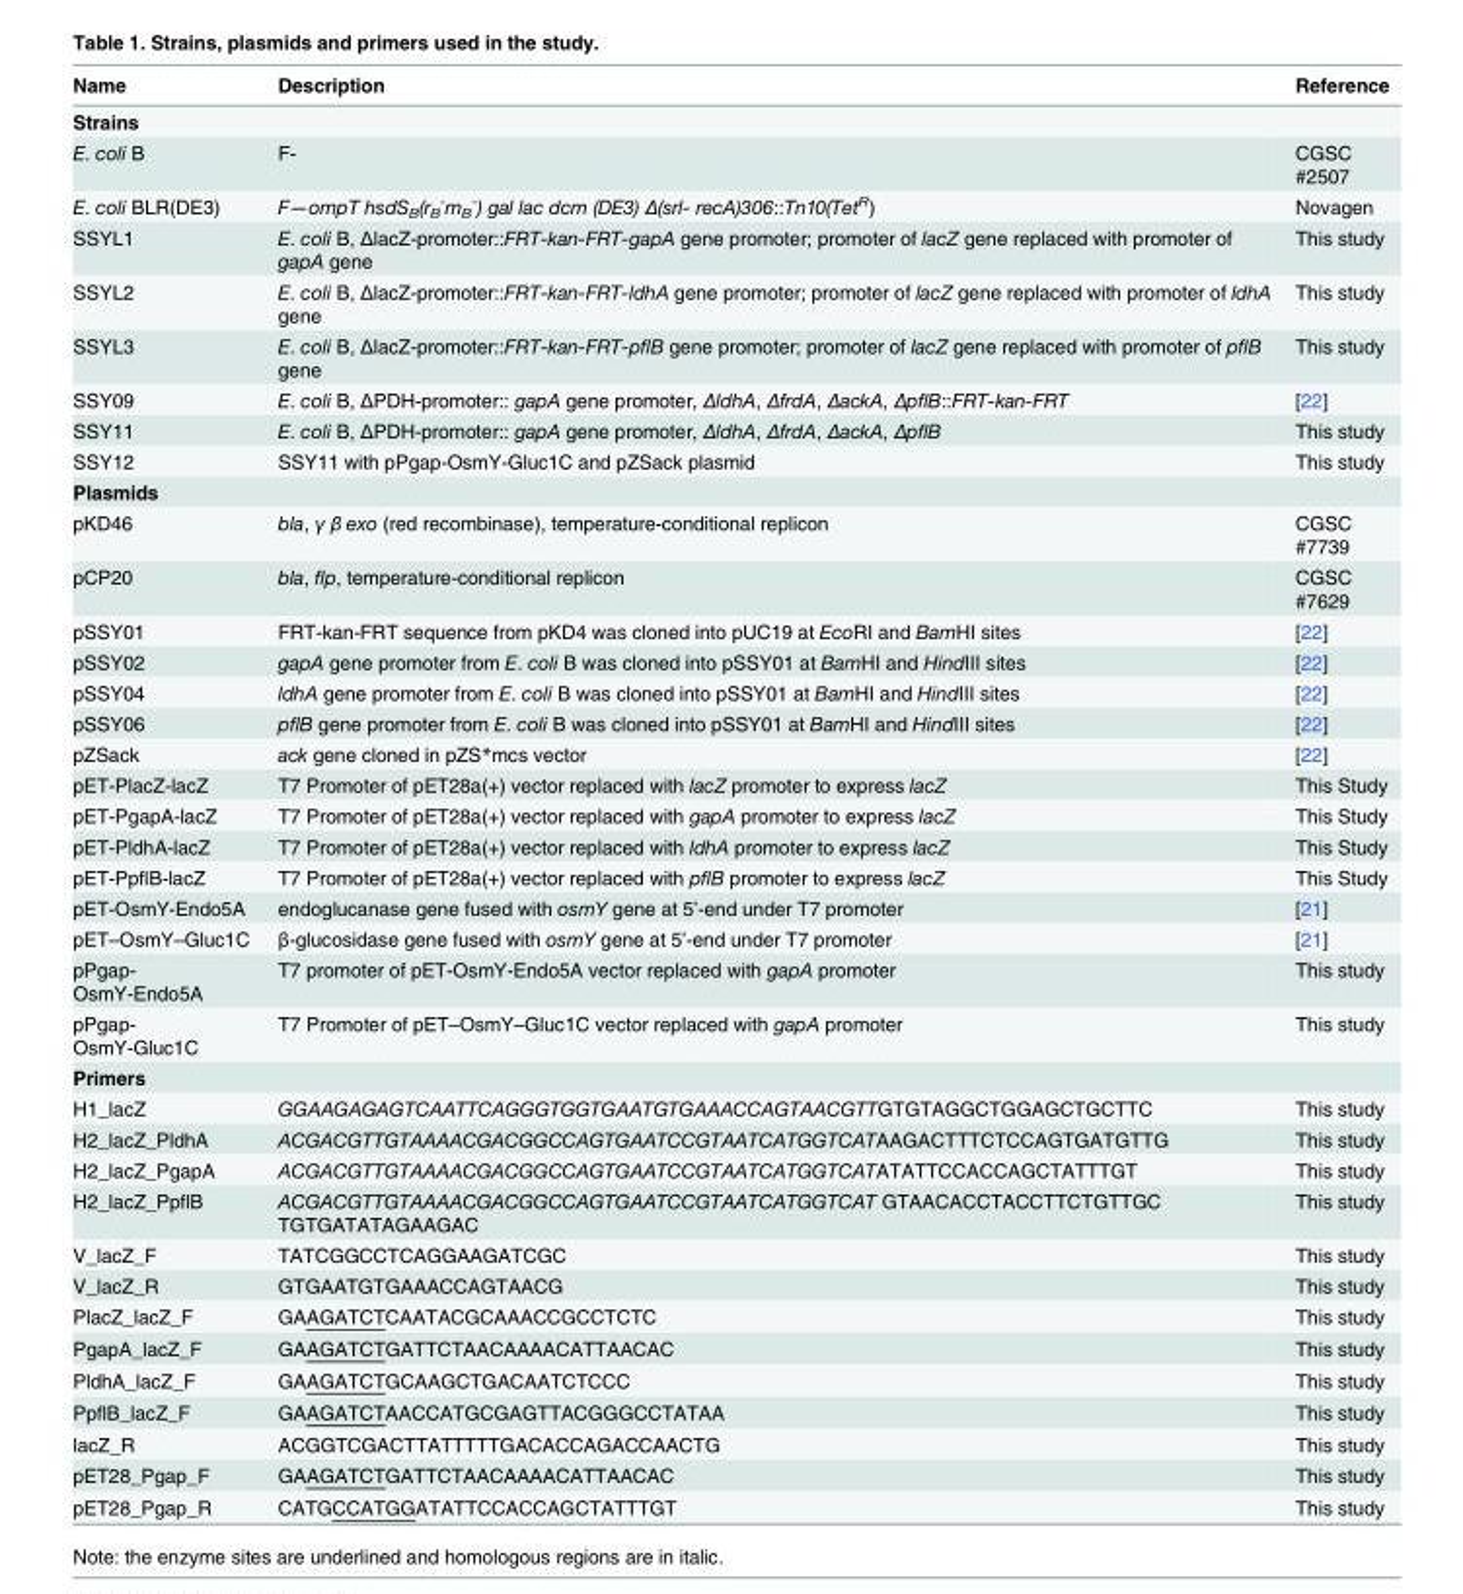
<table><thead><tr><td>Name</td><td>Description</td><td>Reference</td></tr></thead><tbody><tr><td colspan="3">Strains</td></tr><tr><td>E. coli B</td><td>F-</td><td>CGSC #2507</td></tr><tr><td>E. coli BLR(DE3)</td><td>F—ompT hsdS<sub>B</sub>(r<sub>B</sub> <sup>-</sup>m<sub>B</sub> <sup>-</sup>) gal lac dcm (DE3) Δ(srl- recA)306::Tn10(Tet<sup>R</sup>)</td><td>Novagen</td></tr><tr><td>SSYL1</td><td>E. coli B, ΔlacZ-promoter::FRT-kan-FRT-gapA gene promoter; promoter of lacZ gene replaced with promoter of gapA gene</td><td>This study</td></tr><tr><td>SSYL2</td><td>E. coli B, ΔlacZ-promoter::FRT-kan-FRT-ldhA gene promoter; promoter of lacZ gene replaced with promoter of ldhA gene</td><td>This study</td></tr><tr><td>SSYL3</td><td>E. coli B, ΔlacZ-promoter::FRT-kan-FRT-pflB gene promoter; promoter of lacZ gene replaced with promoter of pflB gene</td><td>This study</td></tr><tr><td>SSY09</td><td>E. coli B, ΔPDH-promoter:: gapA gene promoter, ΔldhA, ΔfrdA, ΔackA, ΔpflB::FRT-kan-FRT</td><td>[22]</td></tr><tr><td>SSY11</td><td>E. coli B, ΔPDH-promoter:: gapA gene promoter, ΔldhA, ΔfrdA, ΔackA, ΔpflB</td><td>This study</td></tr><tr><td>SSY12</td><td>SSY11 with pPgap-OsmY-Gluc1C and pZSack plasmid</td><td>This study</td></tr><tr><td colspan="3">Plasmids</td></tr><tr><td>pKD46</td><td>bla, γ β exo (red recombinase), temperature-conditional replicon</td><td>CGSC #7739</td></tr><tr><td>pCP20</td><td>bla, flp, temperature-conditional replicon</td><td>CGSC #7629</td></tr><tr><td>pSSY01</td><td>FRT-kan-FRT sequence from pKD4 was cloned into pUC19 at EcoRI and BamHI sites</td><td>[22]</td></tr><tr><td>pSSY02</td><td>gapA gene promoter from E. coli B was cloned into pSSY01 at BamHI and HindIII sites</td><td>[22]</td></tr><tr><td>pSSY04</td><td>ldhA gene promoter from E. coli B was cloned into pSSY01 at BamHI and HindIII sites</td><td>[22]</td></tr><tr><td>pSSY06</td><td>pflB gene promoter from E. coli B was cloned into pSSY01 at BamHI and HindIII sites</td><td>[22]</td></tr><tr><td>pZSack</td><td>ack gene cloned in pZS*mcs vector</td><td>[22]</td></tr><tr><td>pET-PlacZ-lacZ</td><td>T7 Promoter of pET28a(+) vector replaced with lacZ promoter to express lacZ</td><td>This Study</td></tr><tr><td>pET-PgapA-lacZ</td><td>T7 Promoter of pET28a(+) vector replaced with gapA promoter to express lacZ</td><td>This Study</td></tr><tr><td>pET-PldhA-lacZ</td><td>T7 Promoter of pET28a(+) vector replaced with ldhA promoter to express lacZ</td><td>This Study</td></tr><tr><td>pET-PpflB-lacZ</td><td>T7 Promoter of pET28a(+) vector replaced with pflB promoter to express lacZ</td><td>This Study</td></tr><tr><td>pET-OsmY-Endo5A</td><td>endoglucanase gene fused with osmY gene at 5’-end under T7 promoter</td><td>[21]</td></tr><tr><td>pET–OsmY–Gluc1C</td><td>β-glucosidase gene fused with osmY gene at 5’-end under T7 promoter</td><td>[21]</td></tr><tr><td>pPgap- OsmY-Endo5A</td><td>T7 promoter of pET-OsmY-Endo5A vector replaced with gapA promoter</td><td>This study</td></tr><tr><td>pPgap- OsmY-Gluc1C</td><td>T7 Promoter of pET–OsmY–Gluc1C vector replaced with gapA promoter</td><td>This study</td></tr><tr><td colspan="3">Primers</td></tr><tr><td>H1_lacZ</td><td>GGAAGAGAGTCAATTCAGGGTGGTGAATGTGAAACCAGTAACGTTGTGTAGGCTGGAGCTGCTTC</td><td>This study</td></tr><tr><td>H2_lacZ_PldhA</td><td>ACGACGTTGTAAAACGACGGCCAGTGAATCCGTAATCATGGTCATAAGACTTTCTCCAGTGATGTTG</td><td>This study</td></tr><tr><td>H2_lacZ_PgapA</td><td>ACGACGTTGTAAAACGACGGCCAGTGAATCCGTAATCATGGTCATATATTCCACCAGCTATTTGT</td><td>This study</td></tr><tr><td>H2_lacZ_PpflB</td><td>ACGACGTTGTAAAACGACGGCCAGTGAATCCGTAATCATGGTCAT GTAACACCTACCTTCTGTTGC TGTGATATAGAAGAC</td><td>This study</td></tr><tr><td>V_lacZ_F</td><td>TATCGGCCTCAGGAAGATCGC</td><td>This study</td></tr><tr><td>V_lacZ_R</td><td>GTGAATGTGAAACCAGTAACG</td><td>This study</td></tr><tr><td>PlacZ_lacZ_F</td><td>GAAGATCTCAATACGCAAACCGCCTCTC</td><td>This study</td></tr><tr><td>PgapA_lacZ_F</td><td>GAAGATCTGATTCTAACAAAACATTAACAC</td><td>This study</td></tr><tr><td>PldhA_lacZ_F</td><td>GAAGATCTGCAAGCTGACAATCTCCC</td><td>This study</td></tr><tr><td>PpflB_lacZ_F</td><td>GAAGATCTAACCATGCGAGTTACGGGCCTATAA</td><td>This study</td></tr><tr><td>lacZ_R</td><td>ACGGTCGACTTATTTTTGACACCAGACCAACTG</td><td>This study</td></tr><tr><td>pET28_Pgap_F</td><td>GAAGATCTGATTCTAACAAAACATTAACAC</td><td>This study</td></tr><tr><td>pET28_Pgap_R</td><td>CATGCCATGGATATTCCACCAGCTATTTGT</td><td>This study</td></tr></tbody></table>